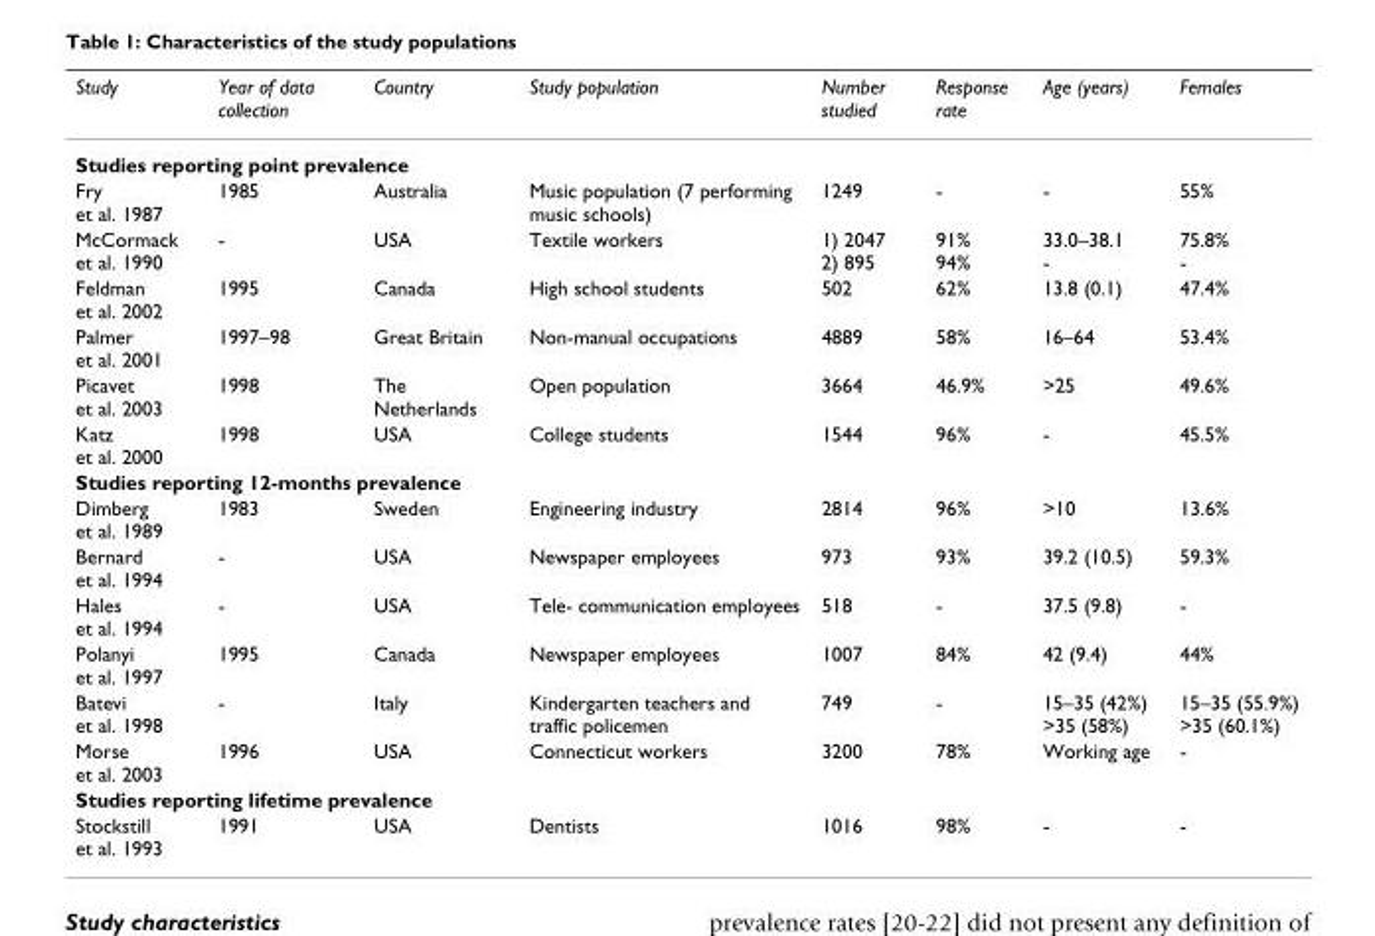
<table><thead><tr><td>Study</td><td>Year of data collection</td><td>Country</td><td>Study population</td><td>Number studied</td><td>Response rate</td><td>Age (years)</td><td>Females</td></tr></thead><tbody><tr><td colspan="8">Studies reporting point prevalence</td></tr><tr><td>Fry et al. 1987</td><td>1985</td><td>Australia</td><td>Music population (7 performing music schools)</td><td>1249</td><td>-</td><td>-</td><td>55%</td></tr><tr><td>McCormack et al. 1990</td><td>-</td><td>USA</td><td>Textile workers</td><td>1) 2047 2) 895</td><td>91% 94%</td><td>33.0–38.1 -</td><td>75.8% -</td></tr><tr><td>Feldman et al. 2002</td><td>1995</td><td>Canada</td><td>High school students</td><td>502</td><td>62%</td><td>13.8 (0.1)</td><td>47.4%</td></tr><tr><td>Palmer et al. 2001</td><td>1997–98</td><td>Great Britain</td><td>Non-manual occupations</td><td>4889</td><td>58%</td><td>16–64</td><td>53.4%</td></tr><tr><td>Picavet et al. 2003</td><td>1998</td><td>The Netherlands</td><td>Open population</td><td>3664</td><td>46.9%</td><td>&gt;25</td><td>49.6%</td></tr><tr><td>Katz et al. 2000</td><td>1998</td><td>USA</td><td>College students</td><td>1544</td><td>96%</td><td>-</td><td>45.5%</td></tr><tr><td colspan="8">Studies reporting 12-months prevalence</td></tr><tr><td>Dimberg et al. 1989</td><td>1983</td><td>Sweden</td><td>Engineering industry</td><td>2814</td><td>96%</td><td>&gt;10</td><td>13.6%</td></tr><tr><td>Bernard et al. 1994</td><td>-</td><td>USA</td><td>Newspaper employees</td><td>973</td><td>93%</td><td>39.2 (10.5)</td><td>59.3%</td></tr><tr><td>Hales et al. 1994</td><td>-</td><td>USA</td><td>Tele- communication employees</td><td>518</td><td>-</td><td>37.5 (9.8)</td><td>-</td></tr><tr><td>Polanyi et al. 1997</td><td>1995</td><td>Canada</td><td>Newspaper employees</td><td>1007</td><td>84%</td><td>42 (9.4)</td><td>44%</td></tr><tr><td>Batevi et al. 1998</td><td>-</td><td>Italy</td><td>Kindergarten teachers and traffic policemen</td><td>749</td><td>-</td><td>15–35 (42%) &gt;35 (58%)</td><td>15–35 (55.9%) &gt;35 (60.1%)</td></tr><tr><td>Morse et al. 2003</td><td>1996</td><td>USA</td><td>Connecticut workers</td><td>3200</td><td>78%</td><td>Working age</td><td>-</td></tr><tr><td colspan="8">Studies reporting lifetime prevalence</td></tr><tr><td>Stockstill et al. 1993</td><td>1991</td><td>USA</td><td>Dentists</td><td>1016</td><td>98%</td><td>-</td><td>-</td></tr></tbody></table>